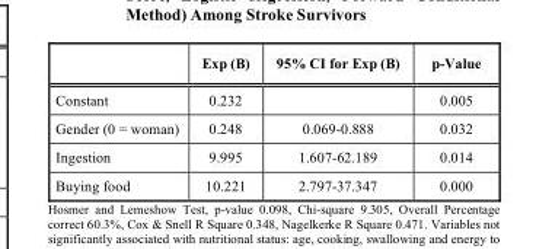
<table><thead><tr><td></td><td>Exp (B)</td><td>95% CI for Exp (B)</td><td>p-Value</td></tr></thead><tbody><tr><td>Constant</td><td>0.232</td><td></td><td>0.005</td></tr><tr><td>Gender (0 = woman)</td><td>0.248</td><td>0.069-0.888</td><td>0.032</td></tr><tr><td>Ingestion</td><td>9.995</td><td>1.607-62.189</td><td>0.014</td></tr><tr><td>Buying food</td><td>10.221</td><td>2.797-37.347</td><td>0.000</td></tr></tbody></table>